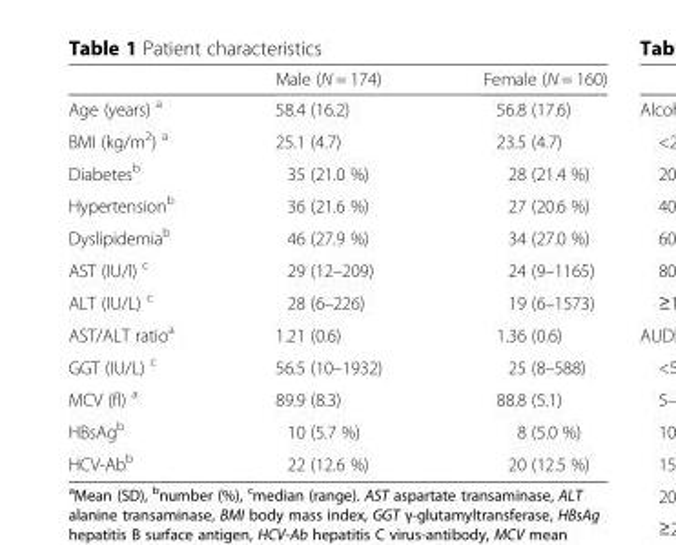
<table><thead><tr><td></td><td>Male (N = 174)</td><td>Female (N = 160)</td></tr></thead><tbody><tr><td>Age (years) <sup>a</sup></td><td>58.4 (16.2)</td><td>56.8 (17.6)</td></tr><tr><td>BMI (kg/m<sup>2</sup>) <sup>a</sup></td><td>25.1 (4.7)</td><td>23.5 (4.7)</td></tr><tr><td>Diabetes<sup>b</sup></td><td>35 (21.0 %)</td><td>28 (21.4 %)</td></tr><tr><td>Hypertension<sup>b</sup></td><td>36 (21.6 %)</td><td>27 (20.6 %)</td></tr><tr><td>Dyslipidemia<sup>b</sup></td><td>46 (27.9 %)</td><td>34 (27.0 %)</td></tr><tr><td>AST (IU/l) <sup>c</sup></td><td>29 (12–209)</td><td>24 (9–1165)</td></tr><tr><td>ALT (IU/L) <sup>c</sup></td><td>28 (6–226)</td><td>19 (6–1573)</td></tr><tr><td>AST/ALT ratio<sup>a</sup></td><td>1.21 (0.6)</td><td>1.36 (0.6)</td></tr><tr><td>GGT (IU/L) <sup>c</sup></td><td>56.5 (10–1932)</td><td>25 (8–588)</td></tr><tr><td>MCV (fl) <sup>a</sup></td><td>89.9 (8.3)</td><td>88.8 (5.1)</td></tr><tr><td>HBsAg<sup>b</sup></td><td>10 (5.7 %)</td><td>8 (5.0 %)</td></tr><tr><td>HCV-Ab<sup>b</sup></td><td>22 (12.6 %)</td><td>20 (12.5 %)</td></tr></tbody></table>